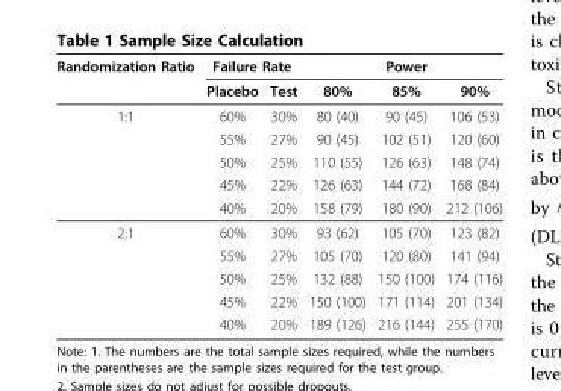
<table><thead><tr><td rowspan="2">Randomization Ratio</td><td colspan="2">Failure Rate</td><td colspan="3">Power</td></tr><tr><td>Placebo</td><td>Test</td><td>80%</td><td>85%</td><td>90%</td></tr></thead><tbody><tr><td rowspan="5">1:1</td><td>60%</td><td>30%</td><td>80 (40)</td><td>90 (45)</td><td>106 (53)</td></tr><tr><td>55%</td><td>27%</td><td>90 (45)</td><td>102 (51)</td><td>120 (60)</td></tr><tr><td>50%</td><td>25%</td><td>110 (55)</td><td>126 (63)</td><td>148 (74)</td></tr><tr><td>45%</td><td>22%</td><td>126 (63)</td><td>144 (72)</td><td>168 (84)</td></tr><tr><td>40%</td><td>20%</td><td>158 (79)</td><td>180 (90)</td><td>212 (106)</td></tr><tr><td rowspan="5">2:1</td><td>60%</td><td>30%</td><td>93 (62)</td><td>105 (70)</td><td>123 (82)</td></tr><tr><td>55%</td><td>27%</td><td>105 (70)</td><td>120 (80)</td><td>141 (94)</td></tr><tr><td>50%</td><td>25%</td><td>132 (88)</td><td>150 (100)</td><td>174 (116)</td></tr><tr><td>45%</td><td>22%</td><td>150 (100)</td><td>171 (114)</td><td>201 (134)</td></tr><tr><td>40%</td><td>20%</td><td>189 (126)</td><td>216 (144)</td><td>255 (170)</td></tr></tbody></table>